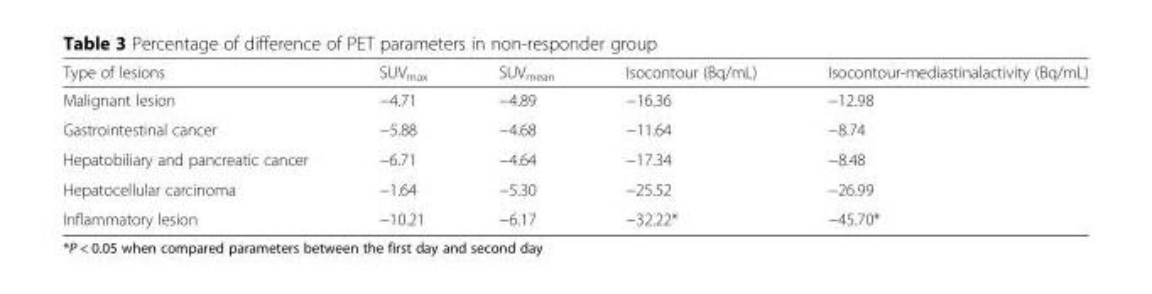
<table><thead><tr><td>Type of lesions</td><td>SUV<sub>max</sub></td><td>SUV<sub>mean</sub></td><td>Isocontour (Bq/mL)</td><td>Isocontour-mediastinalactivity (Bq/mL)</td></tr></thead><tbody><tr><td>Malignant lesion</td><td>−4.71</td><td>−4.89</td><td>−16.36</td><td>−12.98</td></tr><tr><td>Gastrointestinal cancer</td><td>−5.88</td><td>−4.68</td><td>−11.64</td><td>−8.74</td></tr><tr><td>Hepatobiliary and pancreatic cancer</td><td>−6.71</td><td>−4.64</td><td>−17.34</td><td>−8.48</td></tr><tr><td>Hepatocellular carcinoma</td><td>−1.64</td><td>−5.30</td><td>−25.52</td><td>−26.99</td></tr><tr><td>Inflammatory lesion</td><td>−10.21</td><td>−6.17</td><td>−32.22*</td><td>−45.70*</td></tr></tbody></table>